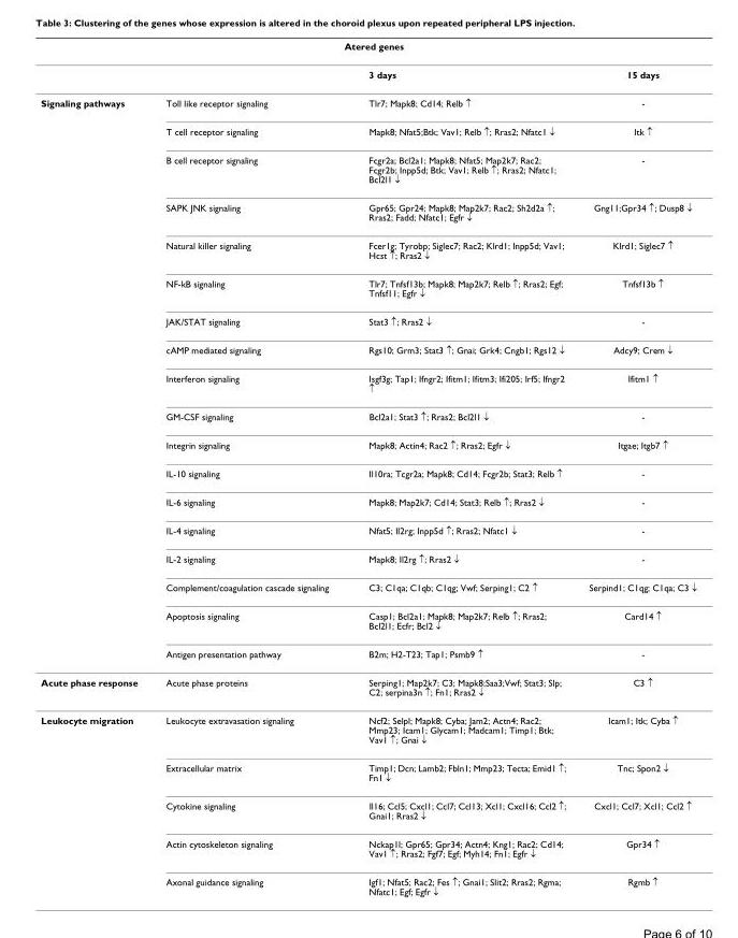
<table><thead><tr><td colspan="4">Atered genes</td></tr><tr><td></td><td></td><td>3 days</td><td>15 days</td></tr></thead><tbody><tr><td rowspan="18">Signaling pathways</td><td>Toll like receptor signaling</td><td>Tlr7; Mapk8; Cd14; Relb ↑</td><td>-</td></tr><tr><td>T cell receptor signaling</td><td>Mapk8; Nfat5;Btk; Vav1; Relb ↑; Rras2; Nfatc1 ↓</td><td>Itk ↑</td></tr><tr><td>B cell receptor signaling</td><td>Fcgr2a; Bcl2a1; Mapk8; Nfat5; Map2k7; Rac2; Fcgr2b; Inpp5d; Btk; Vav1; Relb ↑; Rras2; Nfatc1; Bcl2l1 ↓</td><td>-</td></tr><tr><td>SAPK JNK signaling</td><td>Gpr65; Gpr24; Mapk8; Map2k7; Rac2; Sh2d2a ↑; Rras2; Fadd; Nfatc1; Egfr ↓</td><td>Gng11;Gpr34 ↑; Dusp8 ↓</td></tr><tr><td>Natural killer signaling</td><td>Fcer1g; Tyrobp; Siglec7; Rac2; Klrd1; Inpp5d; Vav1; Hcst ↑; Rras2 ↓</td><td>Klrd1; Siglec7 ↑</td></tr><tr><td>NF-kB signaling</td><td>Tlr7; Tnfsf13b; Mapk8; Map2k7; Relb ↑; Rras2; Egf; Tnfsf11; Egfr ↓</td><td>Tnfsf13b ↑</td></tr><tr><td>JAK/STAT signaling</td><td>Stat3 ↑; Rras2 ↓</td><td>-</td></tr><tr><td>cAMP mediated signaling</td><td>Rgs10; Grm3; Stat3 ↑; Gnai; Grk4; Cngb1; Rgs12 ↓</td><td>Adcy9; Crem ↓</td></tr><tr><td>Interferon signaling</td><td>Isgf3g; Tap1; Ifngr2; Ifitm1; Ifitm3; Ifi205; Irf5; Ifngr2 ↑</td><td>Ifitm1 ↑</td></tr><tr><td>GM-CSF signaling</td><td>Bcl2a1; Stat3 ↑; Rras2; Bcl2l1 ↓</td><td>-</td></tr><tr><td>Integrin signaling</td><td>Mapk8; Actin4; Rac2 ↑; Rras2; Egfr ↓</td><td>Itgae; Itgb7 ↑</td></tr><tr><td>IL-10 signaling</td><td>Il10ra; Tcgr2a; Mapk8; Cd14; Fcgr2b; Stat3; Relb ↑</td><td>-</td></tr><tr><td>IL-6 signaling</td><td>Mapk8; Map2k7; Cd14; Stat3; Relb ↑; Rras2 ↓</td><td>-</td></tr><tr><td>IL-4 signaling</td><td>Nfat5; Il2rg; Inpp5d ↑; Rras2; Nfatc1 ↓</td><td>-</td></tr><tr><td>IL-2 signaling</td><td>Mapk8; Il2rg ↑; Rras2 ↓</td><td>-</td></tr><tr><td>Complement/coagulation cascade signaling</td><td>C3; C1qa; C1qb; C1qg; Vwf; Serping1; C2 ↑</td><td>Serpind1; C1qg; C1qa; C3 ↓</td></tr><tr><td>Apoptosis signaling</td><td>Casp1; Bcl2a1; Mapk8; Map2k7; Relb ↑; Rras2; Bcl2l1; Ecfr; Bcl2 ↓</td><td>Card14 ↑</td></tr><tr><td>Antigen presentation pathway</td><td>B2m; H2-T23; Tap1; Psmb9 ↑</td><td>-</td></tr><tr><td>Acute phase response</td><td>Acute phase proteins</td><td>Serping1; Map2k7; C3; Mapk8;Saa3;Vwf; Stat3; Slp; C2; serpina3n ↑; Fn1; Rras2 ↓</td><td>C3 ↑</td></tr><tr><td rowspan="5">Leukocyte migration</td><td>Leukocyte extravasation signaling</td><td>Ncf2; Selpl; Mapk8; Cyba; Jam2; Actn4; Rac2; Mmp23; Icam1; Glycam1; Madcam1; Timp1; Btk; Vav1 ↑; Gnai ↓</td><td>Icam1; Itk; Cyba ↑</td></tr><tr><td>Extracellular matrix</td><td>Timp1; Dcn; Lamb2; Fbln1; Mmp23; Tecta; Emid1 ↑; Fn1 ↓</td><td>Tnc; Spon2 ↓</td></tr><tr><td>Cytokine signaling</td><td>Il16; Ccl5; Cxcl1; Ccl7; Ccl13; Xcl1; Cxcl16; Ccl2 ↑; Gnai1; Rras2 ↓</td><td>Cxcl1; Ccl7; Xcl1; Ccl2 ↑</td></tr><tr><td>Actin cytoskeleton signaling</td><td>Nckap1l; Gpr65; Gpr34; Actn4; Kng1; Rac2; Cd14; Vav1 ↑; Rras2; Fgf7; Egf; Myh14; Fn1; Egfr ↓</td><td>Gpr34 ↑</td></tr><tr><td>Axonal guidance signaling</td><td>Igf1; Nfat5; Rac2; Fes ↑; Gnai1; Slit2; Rras2; Rgma; Nfatc1; Egf; Egfr ↓</td><td>Rgmb ↑</td></tr></tbody></table>